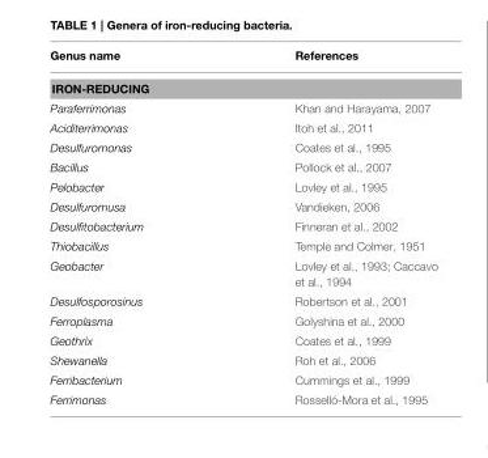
<table><thead><tr><td>Genus name</td><td>References</td></tr></thead><tbody><tr><td colspan="2">IRON-REDUCING</td></tr><tr><td>Paraferrimonas</td><td>Khan and Harayama, 2007</td></tr><tr><td>Aciditerrimonas</td><td>Itoh et al., 2011</td></tr><tr><td>Desulfuromonas</td><td>Coates et al., 1995</td></tr><tr><td>Bacillus</td><td>Pollock et al., 2007</td></tr><tr><td>Pelobacter</td><td>Lovley et al., 1995</td></tr><tr><td>Desulfuromusa</td><td>Vandieken, 2006</td></tr><tr><td>Desulfitobacterium</td><td>Finneran et al., 2002</td></tr><tr><td>Thiobacillus</td><td>Temple and Colmer, 1951</td></tr><tr><td>Geobacter</td><td>Lovley et al., 1993; Caccavo et al., 1994</td></tr><tr><td>Desulfosporosinus</td><td>Robertson et al., 2001</td></tr><tr><td>Ferroplasma</td><td>Golyshina et al., 2000</td></tr><tr><td>Geothrix</td><td>Coates et al., 1999</td></tr><tr><td>Shewanella</td><td>Roh et al., 2006</td></tr><tr><td>Ferribacterium</td><td>Cummings et al., 1999</td></tr><tr><td>Ferrimonas</td><td>Rosselló-Mora et al., 1995</td></tr></tbody></table>